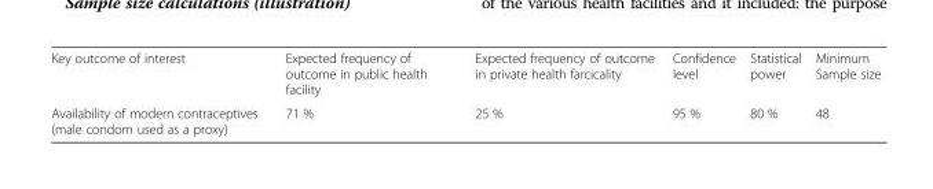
<table><tbody><tr><td>Key outcome of interest</td><td>Expected frequency of outcome in public health facility</td><td>Expected frequency of outcome in private health farcicality</td><td>Confidence level</td><td>Statistical power</td><td>Minimum Sample size</td></tr><tr><td>Availability of modern contraceptives (male condom used as a proxy)</td><td>71 %</td><td>25 %</td><td>95 %</td><td>80 %</td><td>48</td></tr></tbody></table>